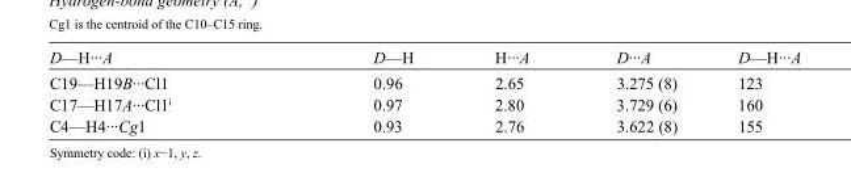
<table><tbody><tr><td>D—H···A</td><td>D—H</td><td>H···A</td><td>D···A</td><td>D—H···A</td></tr><tr><td>C19—H19B···Cl1</td><td>0.96</td><td>2.65</td><td>3.275 (8)</td><td>123</td></tr><tr><td>C17—H17A···Cl1<sup>i</sup></td><td>0.97</td><td>2.80</td><td>3.729 (6)</td><td>160</td></tr><tr><td>C4—H4···Cg1</td><td>0.93</td><td>2.76</td><td>3.622 (8)</td><td>155</td></tr></tbody></table>